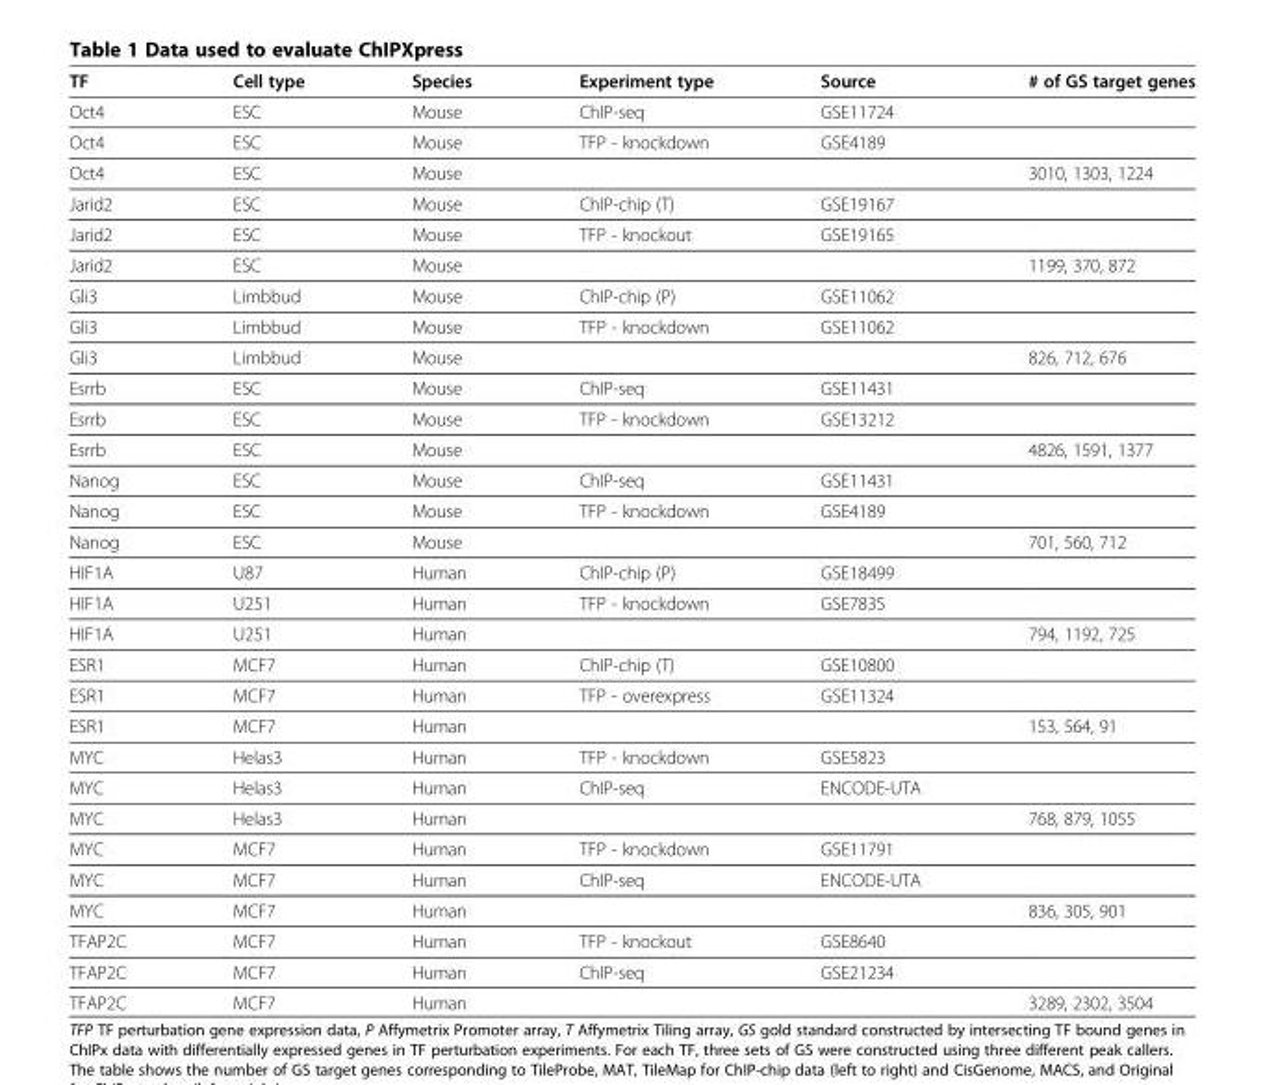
<table><thead><tr><td>TF</td><td>Cell type</td><td>Species</td><td>Experiment type</td><td>Source</td><td># of GS target genes</td></tr></thead><tbody><tr><td>Oct4</td><td>ESC</td><td>Mouse</td><td>ChIP-seq</td><td>GSE11724</td><td></td></tr><tr><td>Oct4</td><td>ESC</td><td>Mouse</td><td>TFP - knockdown</td><td>GSE4189</td><td></td></tr><tr><td>Oct4</td><td>ESC</td><td>Mouse</td><td></td><td></td><td>3010, 1303, 1224</td></tr><tr><td>Jarid2</td><td>ESC</td><td>Mouse</td><td>ChIP-chip (T)</td><td>GSE19167</td><td></td></tr><tr><td>Jarid2</td><td>ESC</td><td>Mouse</td><td>TFP - knockout</td><td>GSE19165</td><td></td></tr><tr><td>Jarid2</td><td>ESC</td><td>Mouse</td><td></td><td></td><td>1199, 370, 872</td></tr><tr><td>Gli3</td><td>Limbbud</td><td>Mouse</td><td>ChIP-chip (P)</td><td>GSE11062</td><td></td></tr><tr><td>Gli3</td><td>Limbbud</td><td>Mouse</td><td>TFP - knockdown</td><td>GSE11062</td><td></td></tr><tr><td>Gli3</td><td>Limbbud</td><td>Mouse</td><td></td><td></td><td>826, 712, 676</td></tr><tr><td>Esrrb</td><td>ESC</td><td>Mouse</td><td>ChIP-seq</td><td>GSE11431</td><td></td></tr><tr><td>Esrrb</td><td>ESC</td><td>Mouse</td><td>TFP - knockdown</td><td>GSE13212</td><td></td></tr><tr><td>Esrrb</td><td>ESC</td><td>Mouse</td><td></td><td></td><td>4826, 1591, 1377</td></tr><tr><td>Nanog</td><td>ESC</td><td>Mouse</td><td>ChIP-seq</td><td>GSE11431</td><td></td></tr><tr><td>Nanog</td><td>ESC</td><td>Mouse</td><td>TFP - knockdown</td><td>GSE4189</td><td></td></tr><tr><td>Nanog</td><td>ESC</td><td>Mouse</td><td></td><td></td><td>701, 560, 712</td></tr><tr><td>HIF1A</td><td>U87</td><td>Human</td><td>ChIP-chip (P)</td><td>GSE18499</td><td></td></tr><tr><td>HIF1A</td><td>U251</td><td>Human</td><td>TFP - knockdown</td><td>GSE7835</td><td></td></tr><tr><td>HIF1A</td><td>U251</td><td>Human</td><td></td><td></td><td>794, 1192, 725</td></tr><tr><td>ESR1</td><td>MCF7</td><td>Human</td><td>ChIP-chip (T)</td><td>GSE10800</td><td></td></tr><tr><td>ESR1</td><td>MCF7</td><td>Human</td><td>TFP - overexpress</td><td>GSE11324</td><td></td></tr><tr><td>ESR1</td><td>MCF7</td><td>Human</td><td></td><td></td><td>153, 564, 91</td></tr><tr><td>MYC</td><td>Helas3</td><td>Human</td><td>TFP - knockdown</td><td>GSE5823</td><td></td></tr><tr><td>MYC</td><td>Helas3</td><td>Human</td><td>ChIP-seq</td><td>ENCODE-UTA</td><td></td></tr><tr><td>MYC</td><td>Helas3</td><td>Human</td><td></td><td></td><td>768, 879, 1055</td></tr><tr><td>MYC</td><td>MCF7</td><td>Human</td><td>TFP - knockdown</td><td>GSE11791</td><td></td></tr><tr><td>MYC</td><td>MCF7</td><td>Human</td><td>ChIP-seq</td><td>ENCODE-UTA</td><td></td></tr><tr><td>MYC</td><td>MCF7</td><td>Human</td><td></td><td></td><td>836, 305, 901</td></tr><tr><td>TFAP2C</td><td>MCF7</td><td>Human</td><td>TFP - knockout</td><td>GSE8640</td><td></td></tr><tr><td>TFAP2C</td><td>MCF7</td><td>Human</td><td>ChIP-seq</td><td>GSE21234</td><td></td></tr><tr><td>TFAP2C</td><td>MCF7</td><td>Human</td><td></td><td></td><td>3289, 2302, 3504</td></tr></tbody></table>